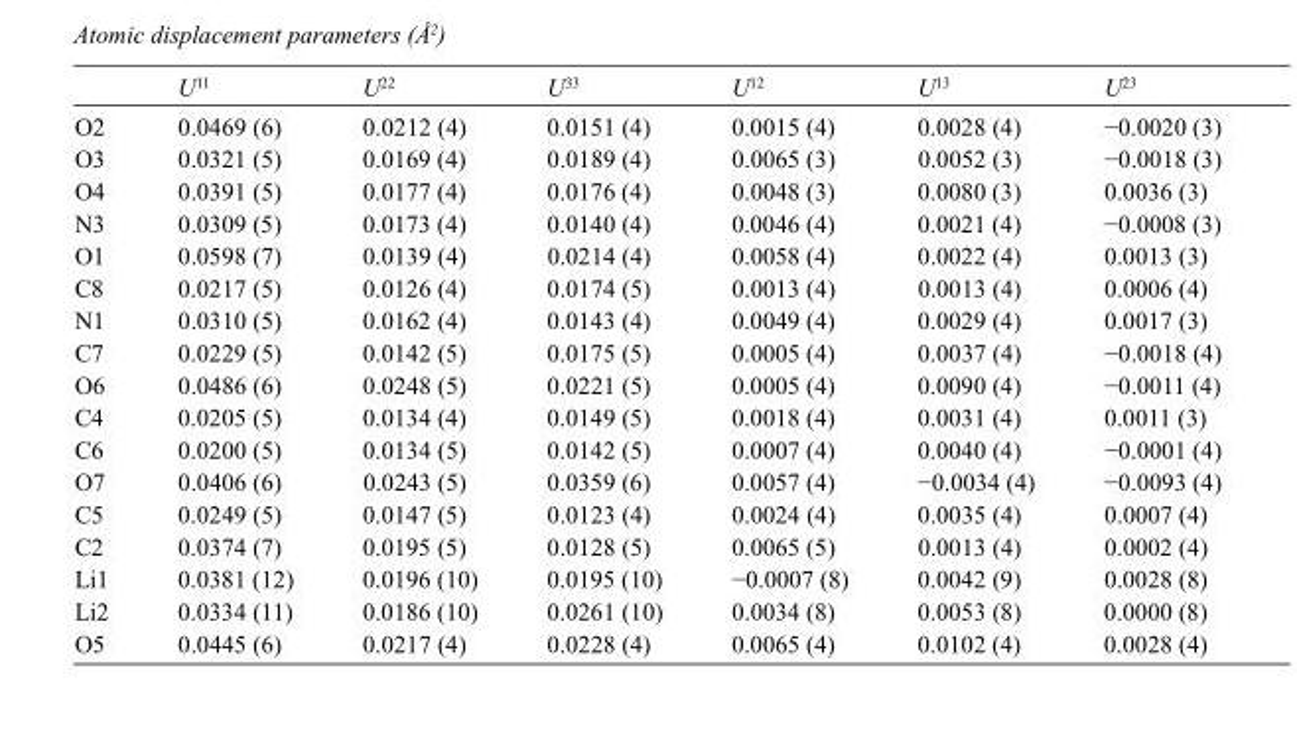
<table><thead><tr><td></td><td>U<sup>11</sup></td><td>U<sup>22</sup></td><td>U<sup>33</sup></td><td>U<sup>12</sup></td><td>U<sup>13</sup></td><td>U<sup>23</sup></td></tr></thead><tbody><tr><td>O2</td><td>0.0469 (6)</td><td>0.0212 (4)</td><td>0.0151 (4)</td><td>0.0015 (4)</td><td>0.0028 (4)</td><td>−0.0020 (3)</td></tr><tr><td>O3</td><td>0.0321 (5)</td><td>0.0169 (4)</td><td>0.0189 (4)</td><td>0.0065 (3)</td><td>0.0052 (3)</td><td>−0.0018 (3)</td></tr><tr><td>O4</td><td>0.0391 (5)</td><td>0.0177 (4)</td><td>0.0176 (4)</td><td>0.0048 (3)</td><td>0.0080 (3)</td><td>0.0036 (3)</td></tr><tr><td>N3</td><td>0.0309 (5)</td><td>0.0173 (4)</td><td>0.0140 (4)</td><td>0.0046 (4)</td><td>0.0021 (4)</td><td>−0.0008 (3)</td></tr><tr><td>O1</td><td>0.0598 (7)</td><td>0.0139 (4)</td><td>0.0214 (4)</td><td>0.0058 (4)</td><td>0.0022 (4)</td><td>0.0013 (3)</td></tr><tr><td>C8</td><td>0.0217 (5)</td><td>0.0126 (4)</td><td>0.0174 (5)</td><td>0.0013 (4)</td><td>0.0013 (4)</td><td>0.0006 (4)</td></tr><tr><td>N1</td><td>0.0310 (5)</td><td>0.0162 (4)</td><td>0.0143 (4)</td><td>0.0049 (4)</td><td>0.0029 (4)</td><td>0.0017 (3)</td></tr><tr><td>C7</td><td>0.0229 (5)</td><td>0.0142 (5)</td><td>0.0175 (5)</td><td>0.0005 (4)</td><td>0.0037 (4)</td><td>−0.0018 (4)</td></tr><tr><td>O6</td><td>0.0486 (6)</td><td>0.0248 (5)</td><td>0.0221 (5)</td><td>0.0005 (4)</td><td>0.0090 (4)</td><td>−0.0011 (4)</td></tr><tr><td>C4</td><td>0.0205 (5)</td><td>0.0134 (4)</td><td>0.0149 (5)</td><td>0.0018 (4)</td><td>0.0031 (4)</td><td>0.0011 (3)</td></tr><tr><td>C6</td><td>0.0200 (5)</td><td>0.0134 (5)</td><td>0.0142 (5)</td><td>0.0007 (4)</td><td>0.0040 (4)</td><td>−0.0001 (4)</td></tr><tr><td>O7</td><td>0.0406 (6)</td><td>0.0243 (5)</td><td>0.0359 (6)</td><td>0.0057 (4)</td><td>−0.0034 (4)</td><td>−0.0093 (4)</td></tr><tr><td>C5</td><td>0.0249 (5)</td><td>0.0147 (5)</td><td>0.0123 (4)</td><td>0.0024 (4)</td><td>0.0035 (4)</td><td>0.0007 (4)</td></tr><tr><td>C2</td><td>0.0374 (7)</td><td>0.0195 (5)</td><td>0.0128 (5)</td><td>0.0065 (5)</td><td>0.0013 (4)</td><td>0.0002 (4)</td></tr><tr><td>Li1</td><td>0.0381 (12)</td><td>0.0196 (10)</td><td>0.0195 (10)</td><td>−0.0007 (8)</td><td>0.0042 (9)</td><td>0.0028 (8)</td></tr><tr><td>Li2</td><td>0.0334 (11)</td><td>0.0186 (10)</td><td>0.0261 (10)</td><td>0.0034 (8)</td><td>0.0053 (8)</td><td>0.0000 (8)</td></tr><tr><td>O5</td><td>0.0445 (6)</td><td>0.0217 (4)</td><td>0.0228 (4)</td><td>0.0065 (4)</td><td>0.0102 (4)</td><td>0.0028 (4)</td></tr></tbody></table>